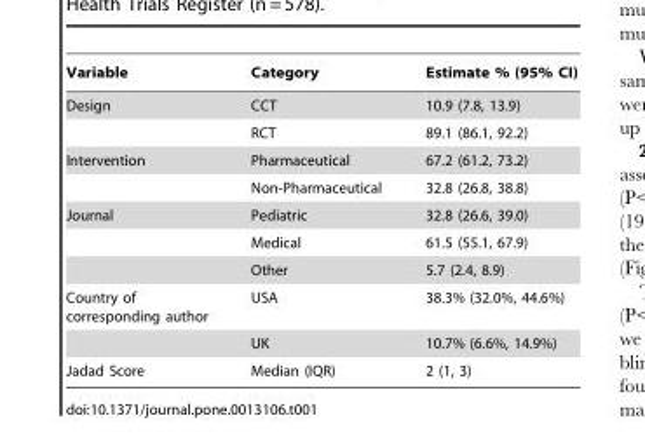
<table><thead><tr><td>Variable</td><td>Category</td><td>Estimate % (95% CI)</td></tr></thead><tbody><tr><td rowspan="2">Design</td><td>CCT</td><td>10.9 (7.8, 13.9)</td></tr><tr><td>RCT</td><td>89.1 (86.1, 92.2)</td></tr><tr><td rowspan="2">Intervention</td><td>Pharmaceutical</td><td>67.2 (61.2, 73.2)</td></tr><tr><td>Non-Pharmaceutical</td><td>32.8 (26.8, 38.8)</td></tr><tr><td rowspan="3">Journal</td><td>Pediatric</td><td>32.8 (26.6, 39.0)</td></tr><tr><td>Medical</td><td>61.5 (55.1, 67.9)</td></tr><tr><td>Other</td><td>5.7 (2.4, 8.9)</td></tr><tr><td rowspan="2">Country of corresponding author</td><td>USA</td><td>38.3% (32.0%, 44.6%)</td></tr><tr><td>UK</td><td>10.7% (6.6%, 14.9%)</td></tr><tr><td>Jadad Score</td><td>Median (IQR)</td><td>2 (1, 3)</td></tr></tbody></table>